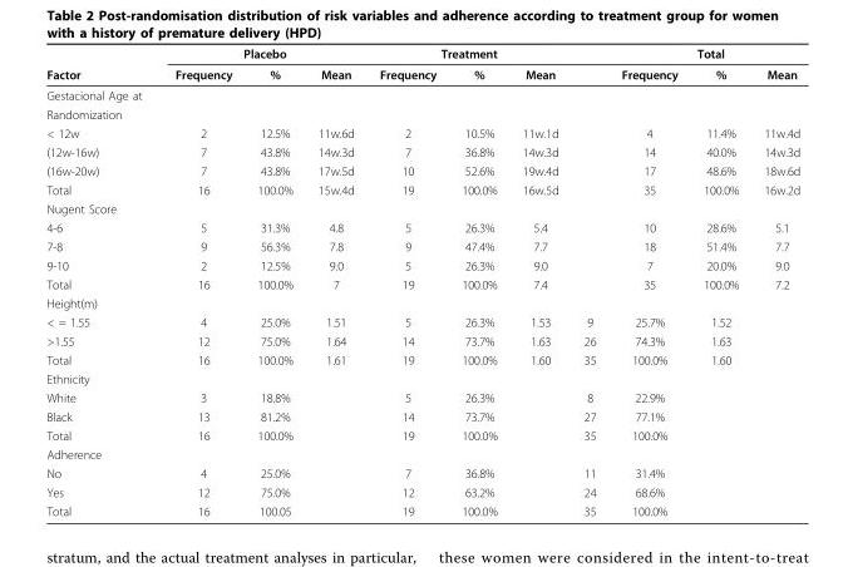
<table><thead><tr><td rowspan="2">Factor</td><td colspan="3">Placebo</td><td colspan="3">Treatment</td><td rowspan="2"></td><td colspan="3">Total</td></tr><tr><td>Frequency</td><td>%</td><td>Mean</td><td>Frequency</td><td>%</td><td>Mean</td><td>Frequency</td><td>%</td><td>Mean</td></tr></thead><tbody><tr><td colspan="11">Gestacional Age at</td></tr><tr><td colspan="11">Randomization</td></tr><tr><td>&lt; 12w</td><td>2</td><td>12.5%</td><td>11w.6d</td><td>2</td><td>10.5%</td><td>11w.1d</td><td></td><td>4</td><td>11.4%</td><td>11w.4d</td></tr><tr><td>(12w-16w)</td><td>7</td><td>43.8%</td><td>14w.3d</td><td>7</td><td>36.8%</td><td>14w.3d</td><td></td><td>14</td><td>40.0%</td><td>14w.3d</td></tr><tr><td>(16w-20w)</td><td>7</td><td>43.8%</td><td>17w.5d</td><td>10</td><td>52.6%</td><td>19w.4d</td><td></td><td>17</td><td>48.6%</td><td>18w.6d</td></tr><tr><td>Total</td><td>16</td><td>100.0%</td><td>15w.4d</td><td>19</td><td>100.0%</td><td>16w.5d</td><td></td><td>35</td><td>100.0%</td><td>16w.2d</td></tr><tr><td colspan="11">Nugent Score</td></tr><tr><td>4-6</td><td>5</td><td>31.3%</td><td>4.8</td><td>5</td><td>26.3%</td><td>5.4</td><td></td><td>10</td><td>28.6%</td><td>5.1</td></tr><tr><td>7-8</td><td>9</td><td>56.3%</td><td>7.8</td><td>9</td><td>47.4%</td><td>7.7</td><td></td><td>18</td><td>51.4%</td><td>7.7</td></tr><tr><td>9-10</td><td>2</td><td>12.5%</td><td>9.0</td><td>5</td><td>26.3%</td><td>9.0</td><td></td><td>7</td><td>20.0%</td><td>9.0</td></tr><tr><td>Total</td><td>16</td><td>100.0%</td><td>7</td><td>19</td><td>100.0%</td><td>7.4</td><td></td><td>35</td><td>100.0%</td><td>7.2</td></tr><tr><td colspan="11">Height(m)</td></tr><tr><td>&lt; = 1.55</td><td>4</td><td>25.0%</td><td>1.51</td><td>5</td><td>26.3%</td><td>1.53</td><td>9</td><td>25.7%</td><td>1.52</td><td></td></tr><tr><td>&gt;1.55</td><td>12</td><td>75.0%</td><td>1.64</td><td>14</td><td>73.7%</td><td>1.63</td><td>26</td><td>74.3%</td><td>1.63</td><td></td></tr><tr><td>Total</td><td>16</td><td>100.0%</td><td>1.61</td><td>19</td><td>100.0%</td><td>1.60</td><td>35</td><td>100.0%</td><td>1.60</td><td></td></tr><tr><td colspan="11">Ethnicity</td></tr><tr><td>White</td><td>3</td><td>18.8%</td><td></td><td>5</td><td>26.3%</td><td></td><td>8</td><td>22.9%</td><td></td><td></td></tr><tr><td>Black</td><td>13</td><td>81.2%</td><td></td><td>14</td><td>73.7%</td><td></td><td>27</td><td>77.1%</td><td></td><td></td></tr><tr><td>Total</td><td>16</td><td>100.0%</td><td></td><td>19</td><td>100.0%</td><td></td><td>35</td><td>100.0%</td><td></td><td></td></tr><tr><td colspan="11">Adherence</td></tr><tr><td>No</td><td>4</td><td>25.0%</td><td></td><td>7</td><td>36.8%</td><td></td><td>11</td><td>31.4%</td><td></td><td></td></tr><tr><td>Yes</td><td>12</td><td>75.0%</td><td></td><td>12</td><td>63.2%</td><td></td><td>24</td><td>68.6%</td><td></td><td></td></tr><tr><td>Total</td><td>16</td><td>100.05</td><td></td><td>19</td><td>100.0%</td><td></td><td>35</td><td>100.0%</td><td></td><td></td></tr></tbody></table>